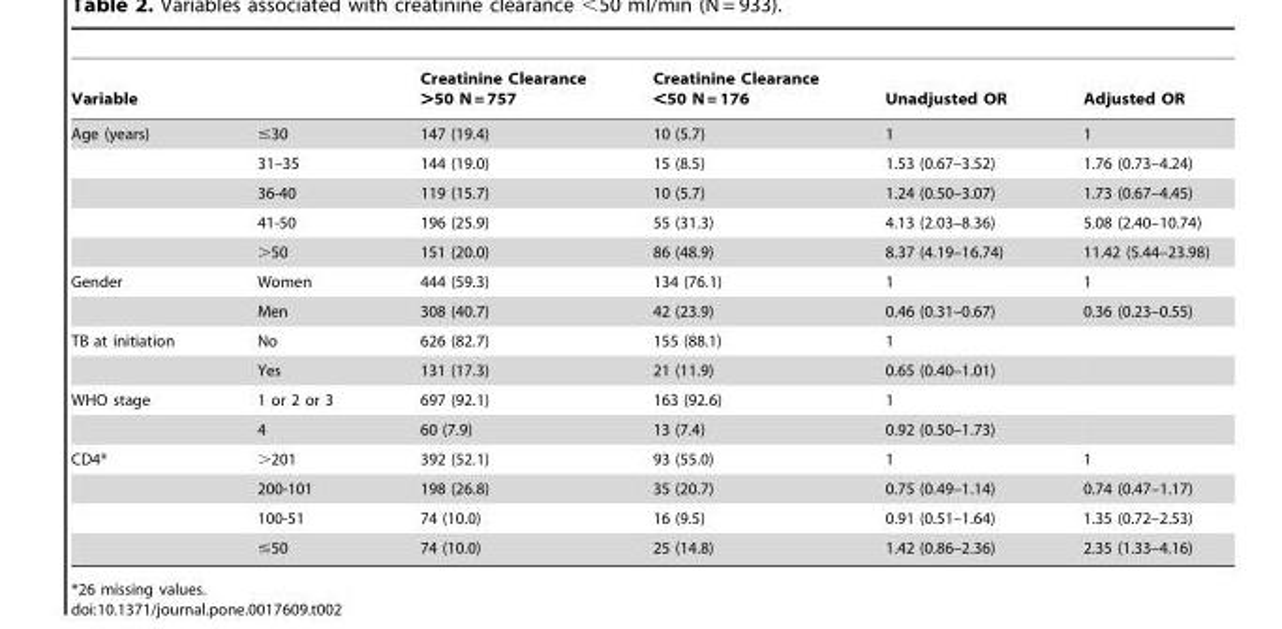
<table><thead><tr><td colspan="2">Variable</td><td rowspan="2">Creatinine Clearance &gt;50 N = 757 147 (19.4)</td><td rowspan="2">Creatinine Clearance &lt;50 N = 176 10 (5.7)</td><td rowspan="2">Unadjusted OR 1</td><td rowspan="2">Adjusted OR 1</td></tr><tr><td>Age (years)</td><td>≤30</td></tr></thead><tbody><tr><td></td><td>31–35</td><td>144 (19.0)</td><td>15 (8.5)</td><td>1.53 (0.67–3.52)</td><td>1.76 (0.73–4.24)</td></tr><tr><td></td><td>36-40</td><td>119 (15.7)</td><td>10 (5.7)</td><td>1.24 (0.50–3.07)</td><td>1.73 (0.67–4.45)</td></tr><tr><td></td><td>41-50</td><td>196 (25.9)</td><td>55 (31.3)</td><td>4.13 (2.03–8.36)</td><td>5.08 (2.40–10.74)</td></tr><tr><td></td><td>&gt;50</td><td>151 (20.0)</td><td>86 (48.9)</td><td>8.37 (4.19–16.74)</td><td>11.42 (5.44–23.98)</td></tr><tr><td rowspan="2">Gender</td><td>Women</td><td>444 (59.3)</td><td>134 (76.1)</td><td>1</td><td>1</td></tr><tr><td>Men</td><td>308 (40.7)</td><td>42 (23.9)</td><td>0.46 (0.31–0.67)</td><td>0.36 (0.23–0.55)</td></tr><tr><td rowspan="2">TB at initiation</td><td>No</td><td>626 (82.7)</td><td>155 (88.1)</td><td>1</td><td></td></tr><tr><td>Yes</td><td>131 (17.3)</td><td>21 (11.9)</td><td>0.65 (0.40–1.01)</td><td></td></tr><tr><td rowspan="2">WHO stage</td><td>1 or 2 or 3</td><td>697 (92.1)</td><td>163 (92.6)</td><td>1</td><td></td></tr><tr><td>4</td><td>60 (7.9)</td><td>13 (7.4)</td><td>0.92 (0.50–1.73)</td><td></td></tr><tr><td rowspan="4">CD4*</td><td>&gt;201</td><td>392 (52.1)</td><td>93 (55.0)</td><td>1</td><td>1</td></tr><tr><td>200-101</td><td>198 (26.8)</td><td>35 (20.7)</td><td>0.75 (0.49–1.14)</td><td>0.74 (0.47–1.17)</td></tr><tr><td>100-51</td><td>74 (10.0)</td><td>16 (9.5)</td><td>0.91 (0.51–1.64)</td><td>1.35 (0.72–2.53)</td></tr><tr><td>≤50</td><td>74 (10.0)</td><td>25 (14.8)</td><td>1.42 (0.86–2.36)</td><td>2.35 (1.33–4.16)</td></tr></tbody></table>